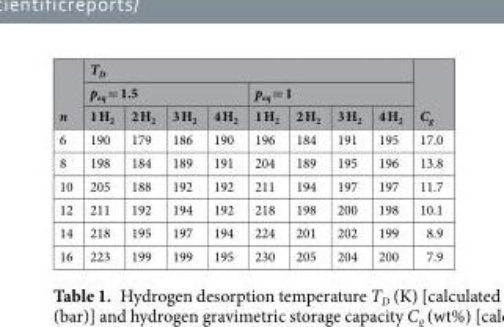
<table><thead><tr><td rowspan="3">n</td><td colspan="8">T<sub>D</sub></td><td rowspan="3">C<sub>g</sub></td></tr><tr><td colspan="4">p<sub>eq</sub> = 1.5</td><td colspan="4">p<sub>eq</sub> = 1</td></tr><tr><td>1 H<sub>2</sub></td><td>2 H<sub>2</sub></td><td>3 H<sub>2</sub></td><td>4 H<sub>2</sub></td><td>1 H<sub>2</sub></td><td>2 H<sub>2</sub></td><td>3 H<sub>2</sub></td><td>4 H<sub>2</sub></td></tr></thead><tbody><tr><td>6</td><td>190</td><td>179</td><td>186</td><td>190</td><td>196</td><td>184</td><td>191</td><td>195</td><td>17.0</td></tr><tr><td>8</td><td>198</td><td>184</td><td>189</td><td>191</td><td>204</td><td>189</td><td>195</td><td>196</td><td>13.8</td></tr><tr><td>10</td><td>205</td><td>188</td><td>192</td><td>192</td><td>211</td><td>194</td><td>197</td><td>197</td><td>11.7</td></tr><tr><td>12</td><td>211</td><td>192</td><td>194</td><td>192</td><td>218</td><td>198</td><td>200</td><td>198</td><td>10.1</td></tr><tr><td>14</td><td>218</td><td>195</td><td>197</td><td>194</td><td>224</td><td>201</td><td>202</td><td>199</td><td>8.9</td></tr><tr><td>16</td><td>223</td><td>199</td><td>199</td><td>195</td><td>230</td><td>205</td><td>204</td><td>200</td><td>7.9</td></tr></tbody></table>